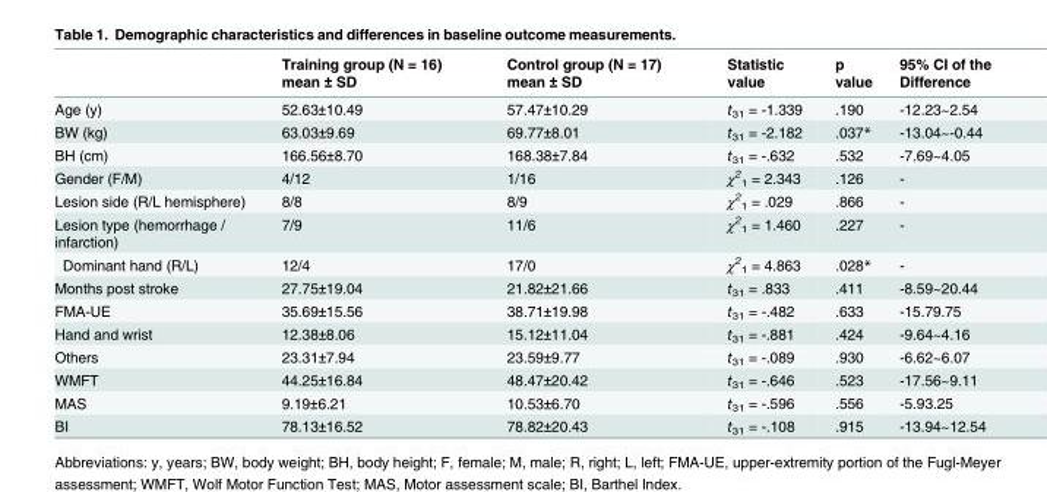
<table><thead><tr><td></td><td>Training group (N = 16) mean ± SD</td><td>Control group (N = 17) mean ± SD</td><td>Statistic value</td><td>p value</td><td>95% CI of the Difference</td></tr></thead><tbody><tr><td>Age (y)</td><td>52.63±10.49</td><td>57.47±10.29</td><td>t<sub>31</sub> = -1.339</td><td>.190</td><td>-12.23~2.54</td></tr><tr><td>BW (kg)</td><td>63.03±9.69</td><td>69.77±8.01</td><td>t<sub>31</sub> = -2.182</td><td>.037*</td><td>-13.04~-0.44</td></tr><tr><td>BH (cm)</td><td>166.56±8.70</td><td>168.38±7.84</td><td>t<sub>31</sub> = -.632</td><td>.532</td><td>-7.69~4.05</td></tr><tr><td>Gender (F/M)</td><td>4/12</td><td>1/16</td><td>χ<sup>2</sup> <sub>1</sub> = 2.343</td><td>.126</td><td>-</td></tr><tr><td>Lesion side (R/L hemisphere)</td><td>8/8</td><td>8/9</td><td>χ<sup>2</sup> <sub>1</sub> = .029</td><td>.866</td><td>-</td></tr><tr><td>Lesion type (hemorrhage / infarction)</td><td>7/9</td><td>11/6</td><td>χ<sup>2</sup> <sub>1</sub> = 1.460</td><td>.227</td><td>-</td></tr><tr><td>Dominant hand (R/L)</td><td>12/4</td><td>17/0</td><td>χ<sup>2</sup> <sub>1</sub> = 4.863</td><td>.028*</td><td>-</td></tr><tr><td>Months post stroke</td><td>27.75±19.04</td><td>21.82±21.66</td><td>t<sub>31</sub> = .833</td><td>.411</td><td>-8.59~20.44</td></tr><tr><td>FMA-UE</td><td>35.69±15.56</td><td>38.71±19.98</td><td>t<sub>31</sub> = -.482</td><td>.633</td><td>-15.79.75</td></tr><tr><td>Hand and wrist</td><td>12.38±8.06</td><td>15.12±11.04</td><td>t<sub>31</sub> = -.881</td><td>.424</td><td>-9.64~4.16</td></tr><tr><td>Others</td><td>23.31±7.94</td><td>23.59±9.77</td><td>t<sub>31</sub> = -.089</td><td>.930</td><td>-6.62~6.07</td></tr><tr><td>WMFT</td><td>44.25±16.84</td><td>48.47±20.42</td><td>t<sub>31</sub> = -.646</td><td>.523</td><td>-17.56~9.11</td></tr><tr><td>MAS</td><td>9.19±6.21</td><td>10.53±6.70</td><td>t<sub>31</sub> = -.596</td><td>.556</td><td>-5.93.25</td></tr><tr><td>BI</td><td>78.13±16.52</td><td>78.82±20.43</td><td>t<sub>31</sub> = -.108</td><td>.915</td><td>-13.94~12.54</td></tr></tbody></table>